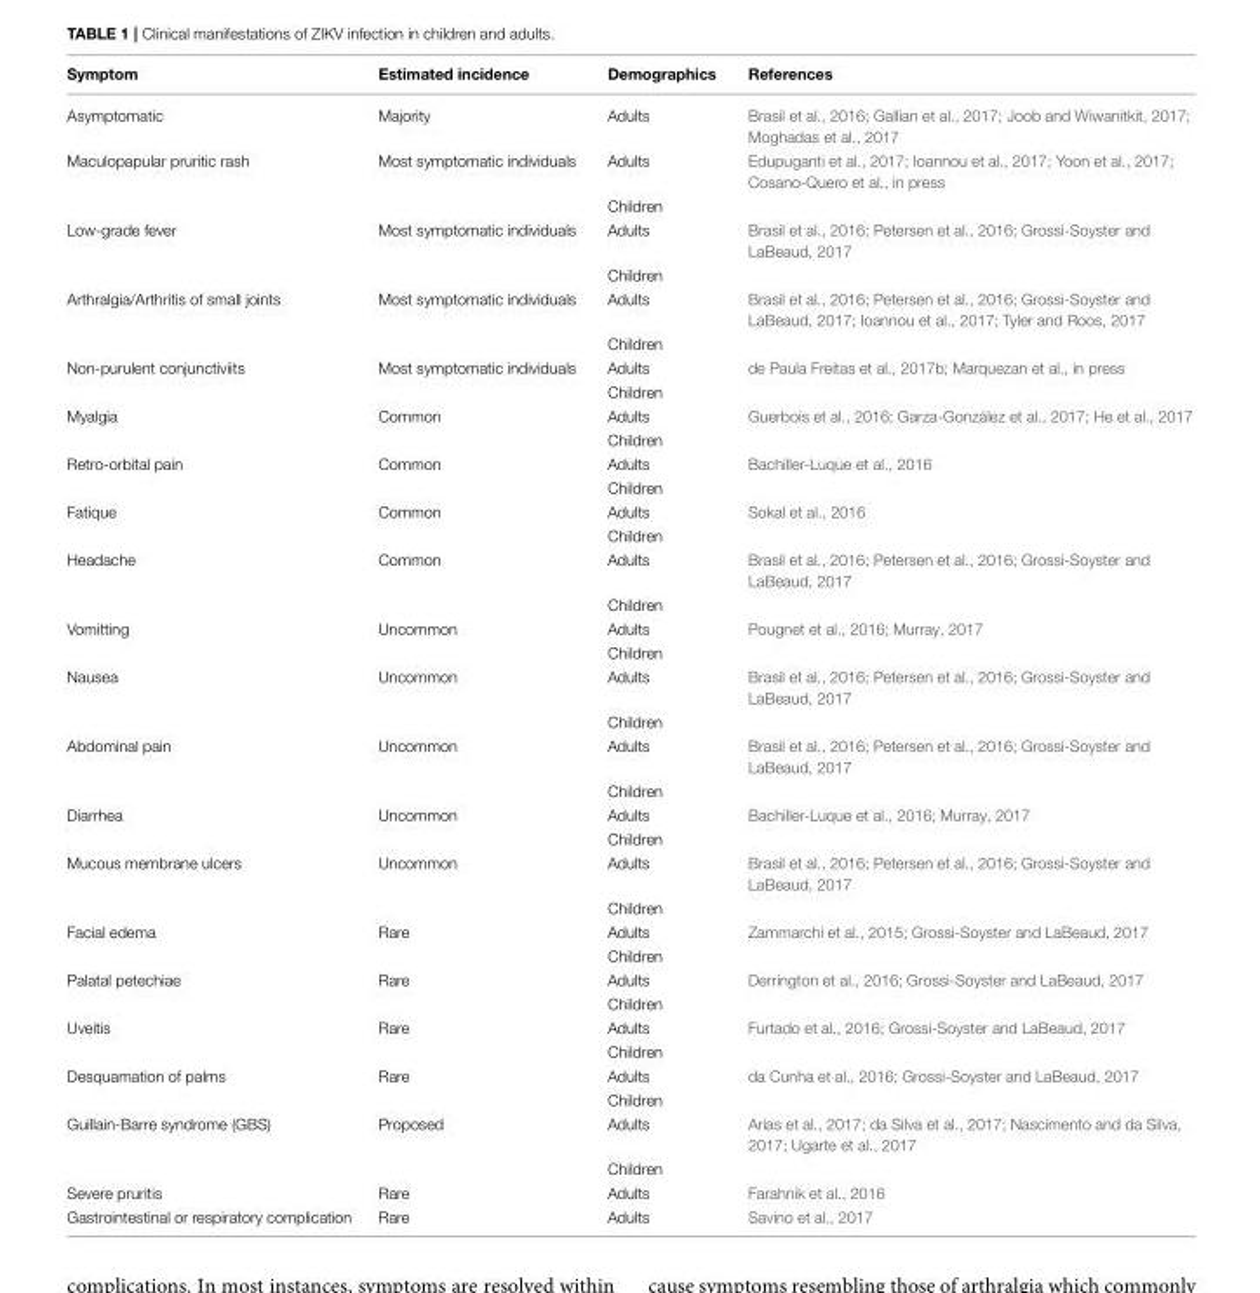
<table><thead><tr><td>Symptom</td><td>Estimated incidence</td><td>Demographics</td><td>References</td></tr></thead><tbody><tr><td>Asymptomatic</td><td>Majority</td><td>Adults</td><td>Brasil et al., 2016; Gallian et al., 2017; Joob and Wiwanitkit, 2017; Moghadas et al., 2017</td></tr><tr><td rowspan="2">Maculopapular pruritic rash</td><td>Most symptomatic individuals</td><td>Adults</td><td>Edupuganti et al., 2017; Ioannou et al., 2017; Yoon et al., 2017; Cosano-Quero et al., in press</td></tr><tr><td></td><td>Children</td><td></td></tr><tr><td rowspan="2">Low-grade fever</td><td>Most symptomatic individuals</td><td>Adults</td><td>Brasil et al., 2016; Petersen et al., 2016; Grossi-Soyster and LaBeaud, 2017</td></tr><tr><td></td><td>Children</td><td></td></tr><tr><td rowspan="2">Arthralgia/Arthritis of small joints</td><td>Most symptomatic individuals</td><td>Adults</td><td>Brasil et al., 2016; Petersen et al., 2016; Grossi-Soyster and LaBeaud, 2017; Ioannou et al., 2017; Tyler and Roos, 2017</td></tr><tr><td></td><td>Children</td><td></td></tr><tr><td rowspan="2">Non-purulent conjunctiviits</td><td>Most symptomatic individuals</td><td>Adults</td><td>de Paula Freitas et al., 2017b; Marquezan et al., in press</td></tr><tr><td></td><td>Children</td><td></td></tr><tr><td rowspan="2">Myalgia</td><td>Common</td><td>Adults</td><td>Guerbois et al., 2016; Garza-González et al., 2017; He et al., 2017</td></tr><tr><td></td><td>Children</td><td></td></tr><tr><td rowspan="2">Retro-orbital pain</td><td>Common</td><td>Adults</td><td>Bachiller-Luque et al., 2016</td></tr><tr><td></td><td>Children</td><td></td></tr><tr><td rowspan="2">Fatique</td><td>Common</td><td>Adults</td><td>Sokal et al., 2016</td></tr><tr><td></td><td>Children</td><td></td></tr><tr><td rowspan="2">Headache</td><td>Common</td><td>Adults</td><td>Brasil et al., 2016; Petersen et al., 2016; Grossi-Soyster and LaBeaud, 2017</td></tr><tr><td></td><td>Children</td><td></td></tr><tr><td rowspan="2">Vomitting</td><td>Uncommon</td><td>Adults</td><td>Pougnet et al., 2016; Murray, 2017</td></tr><tr><td></td><td>Children</td><td></td></tr><tr><td rowspan="2">Nausea</td><td>Uncommon</td><td>Adults</td><td>Brasil et al., 2016; Petersen et al., 2016; Grossi-Soyster and LaBeaud, 2017</td></tr><tr><td></td><td>Children</td><td></td></tr><tr><td rowspan="2">Abdominal pain</td><td>Uncommon</td><td>Adults</td><td>Brasil et al., 2016; Petersen et al., 2016; Grossi-Soyster and LaBeaud, 2017</td></tr><tr><td></td><td>Children</td><td></td></tr><tr><td rowspan="2">Diarrhea</td><td>Uncommon</td><td>Adults</td><td>Bachiller-Luque et al., 2016; Murray, 2017</td></tr><tr><td></td><td>Children</td><td></td></tr><tr><td rowspan="2">Mucous membrane ulcers</td><td>Uncommon</td><td>Adults</td><td>Brasil et al., 2016; Petersen et al., 2016; Grossi-Soyster and LaBeaud, 2017</td></tr><tr><td></td><td>Children</td><td></td></tr><tr><td rowspan="2">Facial edema</td><td>Rare</td><td>Adults</td><td>Zammarchi et al., 2015; Grossi-Soyster and LaBeaud, 2017</td></tr><tr><td></td><td>Children</td><td></td></tr><tr><td rowspan="2">Palatal petechiae</td><td>Rare</td><td>Adults</td><td>Derrington et al., 2016; Grossi-Soyster and LaBeaud, 2017</td></tr><tr><td></td><td>Children</td><td></td></tr><tr><td rowspan="2">Uveitis</td><td>Rare</td><td>Adults</td><td>Furtado et al., 2016; Grossi-Soyster and LaBeaud, 2017</td></tr><tr><td></td><td>Children</td><td></td></tr><tr><td rowspan="2">Desquamation of palms</td><td>Rare</td><td>Adults</td><td>da Cunha et al., 2016; Grossi-Soyster and LaBeaud, 2017</td></tr><tr><td></td><td>Children</td><td></td></tr><tr><td rowspan="2">Guillain-Barre syndrome (GBS)</td><td>Proposed</td><td>Adults</td><td>Arias et al., 2017; da Silva et al., 2017; Nascimento and da Silva, 2017; Ugarte et al., 2017</td></tr><tr><td></td><td>Children</td><td></td></tr><tr><td>Severe pruritis</td><td>Rare</td><td>Adults</td><td>Farahnik et al., 2016</td></tr><tr><td>Gastrointestinal or respiratory complication</td><td>Rare</td><td>Adults</td><td>Savino et al., 2017</td></tr></tbody></table>